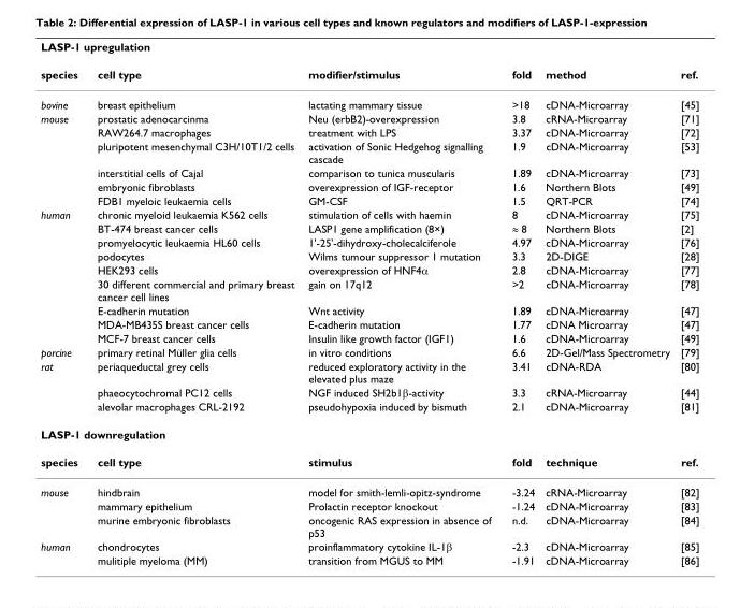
<table><thead><tr><td colspan="6">LASP-1 upregulation</td></tr><tr><td>species</td><td>cell type</td><td>modifier/stimulus</td><td>fold</td><td>method</td><td>ref.</td></tr></thead><tbody><tr><td>bovine</td><td>breast epithelium</td><td>lactating mammary tissue</td><td>&gt;18</td><td>cDNA-Microarray</td><td>[45]</td></tr><tr><td rowspan="6">mouse</td><td>prostatic adenocarcinma</td><td>Neu (erbB2)-overexpression</td><td>3.8</td><td>cRNA-Microarray</td><td>[71]</td></tr><tr><td>RAW264.7 macrophages</td><td>treatment with LPS</td><td>3.37</td><td>cDNA-Microarray</td><td>[72]</td></tr><tr><td>pluripotent mesenchymal C3H/10T1/2 cells</td><td>activation of Sonic Hedgehog signalling cascade</td><td>1.9</td><td>cDNA-Microarray</td><td>[53]</td></tr><tr><td>interstitial cells of Cajal</td><td>comparison to tunica muscularis</td><td>1.89</td><td>cDNA-Microarray</td><td>[73]</td></tr><tr><td>embryonic fibroblasts</td><td>overexpression of IGF-receptor</td><td>1.6</td><td>Northern Blots</td><td>[49]</td></tr><tr><td>FDB1 myeloic leukaemia cells</td><td>GM-CSF</td><td>1.5</td><td>QRT-PCR</td><td>[74]</td></tr><tr><td rowspan="9">human</td><td>chronic myeloid leukaemia K562 cells</td><td>stimulation of cells with haemin</td><td>8</td><td>cDNA-Microarray</td><td>[75]</td></tr><tr><td>BT-474 breast cancer cells</td><td>LASP1 gene amplification (8×)</td><td>≈ 8</td><td>Northern Blots</td><td>[2]</td></tr><tr><td>promyelocytic leukaemia HL60 cells</td><td>1&#x27;-25&#x27;-dihydroxy-cholecalciferole</td><td>4.97</td><td>cDNA-Microarray</td><td>[76]</td></tr><tr><td>podocytes</td><td>Wilms tumour suppressor 1 mutation</td><td>3.3</td><td>2D-DIGE</td><td>[28]</td></tr><tr><td>HEK293 cells</td><td>overexpression of HNF4α</td><td>2.8</td><td>cDNA-Microarray</td><td>[77]</td></tr><tr><td>30 different commercial and primary breast cancer cell lines</td><td>gain on 17q12</td><td>&gt;2</td><td>cDNA-Microarray</td><td>[78]</td></tr><tr><td>E-cadherin mutation</td><td>Wnt activity</td><td>1.89</td><td>cDNA-Microarray</td><td>[47]</td></tr><tr><td>MDA-MB435S breast cancer cells</td><td>E-cadherin mutation</td><td>1.77</td><td>cDNA Microarray</td><td>[47]</td></tr><tr><td>MCF-7 breast cancer cells</td><td>Insulin like growth factor (IGF1)</td><td>1.6</td><td>cDNA-Microarray</td><td>[49]</td></tr><tr><td>porcine</td><td>primary retinal Müller glia cells</td><td>in vitro conditions</td><td>6.6</td><td>2D-Gel/Mass Spectrometry</td><td>[79]</td></tr><tr><td rowspan="3">rat</td><td>periaqueductal grey cells</td><td>reduced exploratory activity in the elevated plus maze</td><td>3.41</td><td>cDNA-RDA</td><td>[80]</td></tr><tr><td>phaeocytochromal PC12 cells</td><td>NGF induced SH2b1β-activity</td><td>3.3</td><td>cRNA-Microarray</td><td>[44]</td></tr><tr><td>alevolar macrophages CRL-2192</td><td>pseudohypoxia induced by bismuth</td><td>2.1</td><td>cDNA-Microarray</td><td>[81]</td></tr><tr><td colspan="6">LASP-1 downregulation</td></tr><tr><td>species</td><td>cell type</td><td>stimulus</td><td>fold</td><td>technique</td><td>ref.</td></tr><tr><td rowspan="3">mouse</td><td>hindbrain</td><td>model for smith-lemli-opitz-syndrome</td><td>-3.24</td><td>cRNA-Microarray</td><td>[82]</td></tr><tr><td>mammary epithelium</td><td>Prolactin receptor knockout</td><td>-1.24</td><td>cDNA-Microarray</td><td>[83]</td></tr><tr><td>murine embryonic fibroblasts</td><td>oncogenic RAS expression in absence of p53</td><td>n.d.</td><td>cDNA-Microarray</td><td>[84]</td></tr><tr><td rowspan="2">human</td><td>chondrocytes</td><td>proinflammatory cytokine IL-1β</td><td>-2.3</td><td>cDNA-Microarray</td><td>[85]</td></tr><tr><td>mulitiple myeloma (MM)</td><td>transition from MGUS to MM</td><td>-1.91</td><td>cDNA-Microarray</td><td>[86]</td></tr></tbody></table>